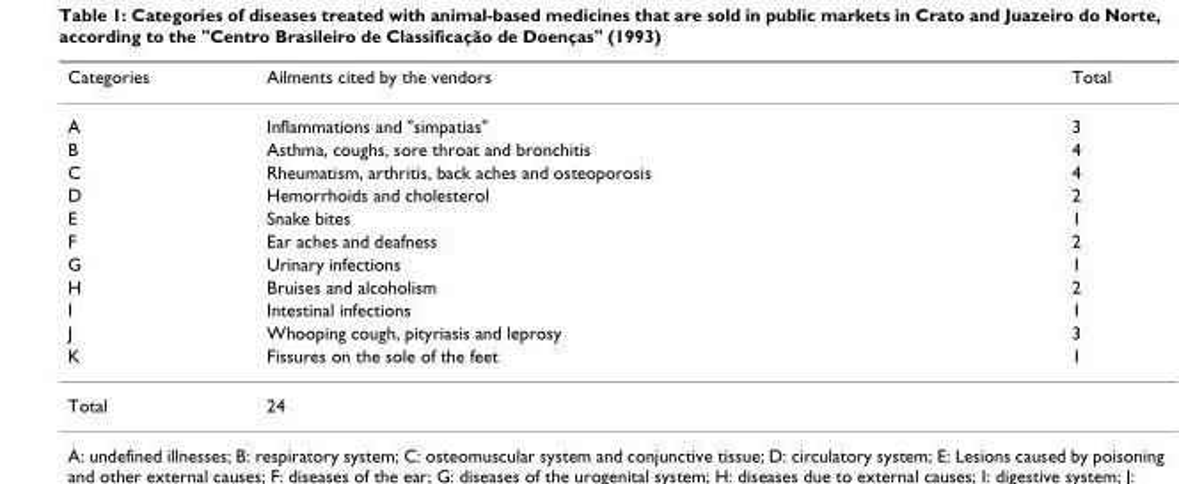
<table><thead><tr><td>Categories</td><td>Ailments cited by the vendors</td><td>Total</td></tr></thead><tbody><tr><td>A</td><td>Inflammations and &quot;simpatias&quot;</td><td>3</td></tr><tr><td>B</td><td>Asthma, coughs, sore throat and bronchitis</td><td>4</td></tr><tr><td>C</td><td>Rheumatism, arthritis, back aches and osteoporosis</td><td>4</td></tr><tr><td>D</td><td>Hemorrhoids and cholesterol</td><td>2</td></tr><tr><td>E</td><td>Snake bites</td><td>1</td></tr><tr><td>F</td><td>Ear aches and deafness</td><td>2</td></tr><tr><td>G</td><td>Urinary infections</td><td>1</td></tr><tr><td>H</td><td>Bruises and alcoholism</td><td>2</td></tr><tr><td>I</td><td>Intestinal infections</td><td>1</td></tr><tr><td>J</td><td>Whooping cough, pityriasis and leprosy</td><td>3</td></tr><tr><td>K</td><td>Fissures on the sole of the feet</td><td>1</td></tr><tr><td>Total</td><td>24</td><td></td></tr></tbody></table>